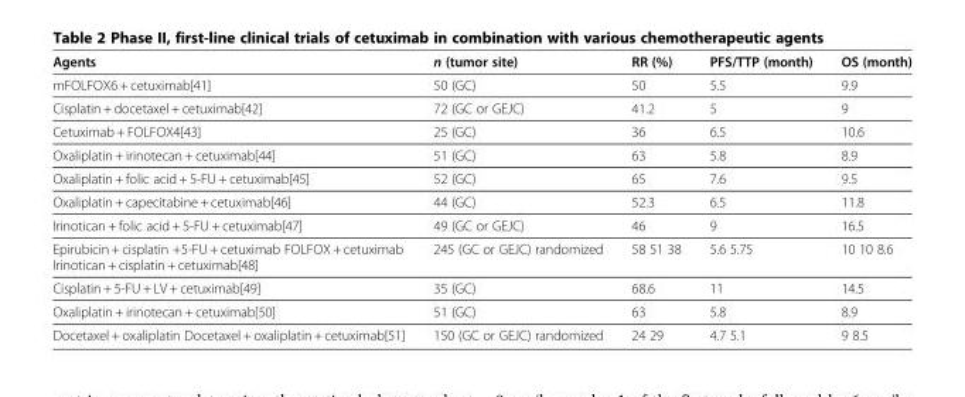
<table><thead><tr><td>Agents</td><td>n (tumor site)</td><td>RR (%)</td><td>PFS/TTP (month)</td><td>OS (month)</td></tr></thead><tbody><tr><td>mFOLFOX6 + cetuximab[41]</td><td>50 (GC)</td><td>50</td><td>5.5</td><td>9.9</td></tr><tr><td>Cisplatin + docetaxel + cetuximab[42]</td><td>72 (GC or GEJC)</td><td>41.2</td><td>5</td><td>9</td></tr><tr><td>Cetuximab + FOLFOX4[43]</td><td>25 (GC)</td><td>36</td><td>6.5</td><td>10.6</td></tr><tr><td>Oxaliplatin + irinotecan + cetuximab[44]</td><td>51 (GC)</td><td>63</td><td>5.8</td><td>8.9</td></tr><tr><td>Oxaliplatin + folic acid + 5-FU + cetuximab[45]</td><td>52 (GC)</td><td>65</td><td>7.6</td><td>9.5</td></tr><tr><td>Oxaliplatin + capecitabine + cetuximab[46]</td><td>44 (GC)</td><td>52.3</td><td>6.5</td><td>11.8</td></tr><tr><td>Irinotican + folic acid + 5-FU + cetuximab[47]</td><td>49 (GC or GEJC)</td><td>46</td><td>9</td><td>16.5</td></tr><tr><td>Epirubicin + cisplatin +5-FU + cetuximab FOLFOX + cetuximab Irinotican + cisplatin + cetuximab[48]</td><td>245 (GC or GEJC) randomized</td><td>58 51 38</td><td>5.6 5.75</td><td>10 10 8.6</td></tr><tr><td>Cisplatin + 5-FU + LV + cetuximab[49]</td><td>35 (GC)</td><td>68.6</td><td>11</td><td>14.5</td></tr><tr><td>Oxaliplatin + irinotecan + cetuximab[50]</td><td>51 (GC)</td><td>63</td><td>5.8</td><td>8.9</td></tr><tr><td>Docetaxel + oxaliplatin Docetaxel + oxaliplatin + cetuximab[51]</td><td>150 (GC or GEJC) randomized</td><td>24 29</td><td>4.7 5.1</td><td>9 8.5</td></tr></tbody></table>